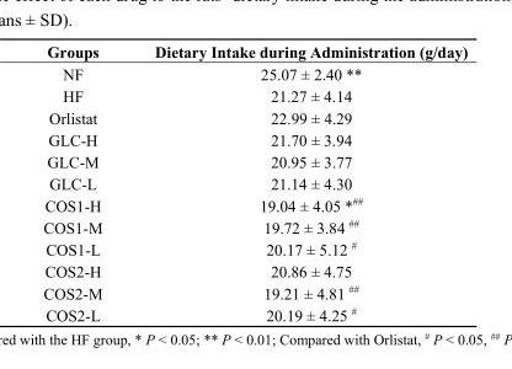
<table><thead><tr><td>Groups</td><td>Dietary Intake during Administration (g/day)</td></tr></thead><tbody><tr><td>NF</td><td>25.07 ± 2.40 **</td></tr><tr><td>HF</td><td>21.27 ± 4.14</td></tr><tr><td>Orlistat</td><td>22.99 ± 4.29</td></tr><tr><td>GLC-H</td><td>21.70 ± 3.94</td></tr><tr><td>GLC-M</td><td>20.95 ± 3.77</td></tr><tr><td>GLC-L</td><td>21.14 ± 4.30</td></tr><tr><td>COS1-H</td><td>19.04 ± 4.05 *<sup>##</sup></td></tr><tr><td>COS1-M</td><td>19.72 ± 3.84 <sup>##</sup></td></tr><tr><td>COS1-L</td><td>20.17 ± 5.12 <sup>#</sup></td></tr><tr><td>COS2-H</td><td>20.86 ± 4.75</td></tr><tr><td>COS2-M</td><td>19.21 ± 4.81 <sup>##</sup></td></tr><tr><td>COS2-L</td><td>20.19 ± 4.25 <sup>#</sup></td></tr></tbody></table>